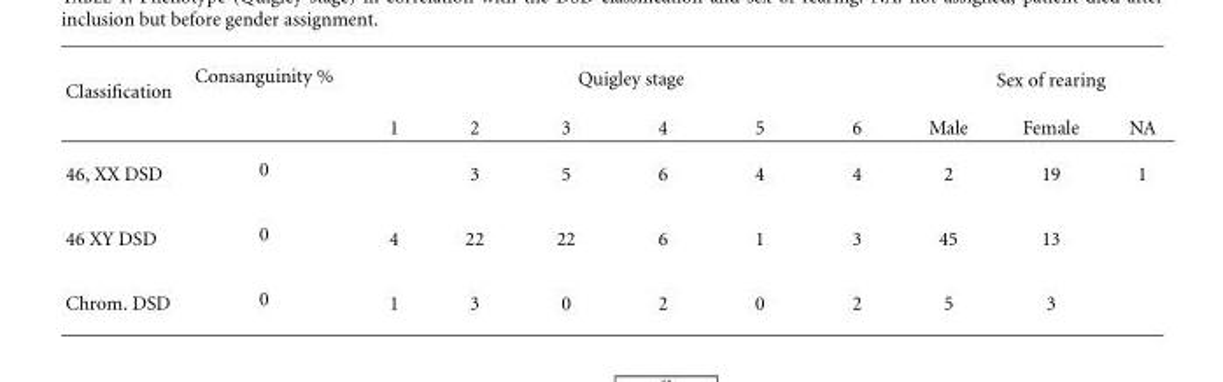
<table><thead><tr><td rowspan="2">Classification</td><td rowspan="2">Consanguinity %</td><td colspan="6">Quigley stage</td><td rowspan="2">Male</td><td rowspan="2">Sex of rearing Female</td><td rowspan="2">NA</td></tr><tr><td>1</td><td>2</td><td>3</td><td>4</td><td>5</td><td>6</td></tr></thead><tbody><tr><td>46, XX DSD</td><td>0</td><td></td><td>3</td><td>5</td><td>6</td><td>4</td><td>4</td><td>2</td><td>19</td><td>1</td></tr><tr><td>46 XY DSD</td><td>0</td><td>4</td><td>22</td><td>22</td><td>6</td><td>1</td><td>3</td><td>45</td><td>13</td><td></td></tr><tr><td>Chrom. DSD</td><td>0</td><td>1</td><td>3</td><td>0</td><td>2</td><td>0</td><td>2</td><td>5</td><td>3</td><td></td></tr></tbody></table>